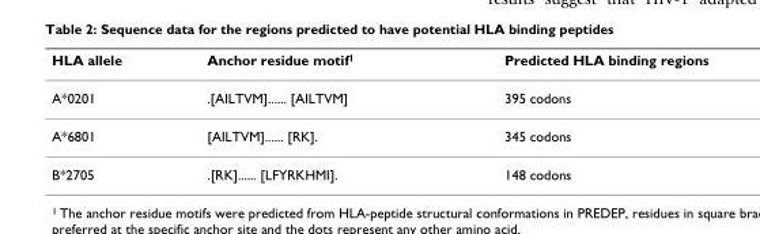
<table><thead><tr><td>HLA allele</td><td>Anchor residue motif<sup>1</sup></td><td>Predicted HLA binding regions</td></tr></thead><tbody><tr><td>A*0201</td><td>.[AILTVM]...... [AILTVM]</td><td>395 codons</td></tr><tr><td>A*6801</td><td>[AILTVM]...... [RK].</td><td>345 codons</td></tr><tr><td>B*2705</td><td>.[RK]...... [LFYRKHMI].</td><td>148 codons</td></tr></tbody></table>